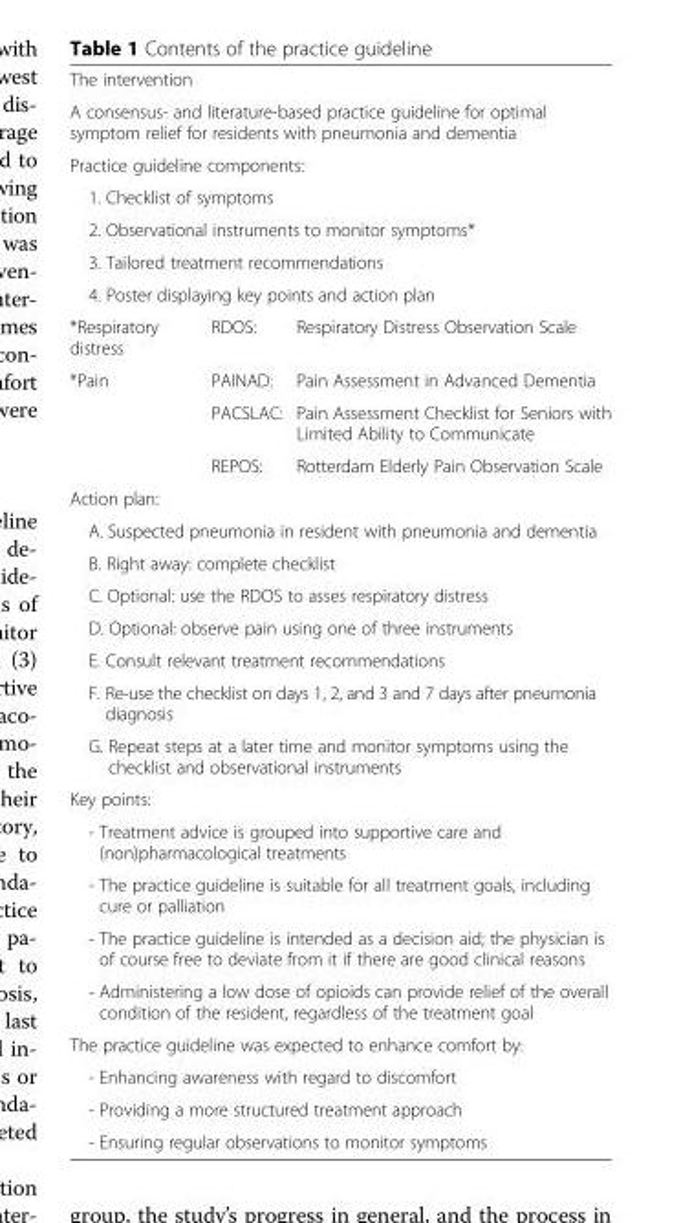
<table><tbody><tr><td colspan="3">The intervention</td></tr><tr><td colspan="3">A consensus- and literature-based practice guideline for optimal symptom relief for residents with pneumonia and dementia</td></tr><tr><td colspan="3">Practice guideline components:</td></tr><tr><td colspan="3">1. Checklist of symptoms</td></tr><tr><td colspan="3">2. Observational instruments to monitor symptoms*</td></tr><tr><td colspan="3">3. Tailored treatment recommendations</td></tr><tr><td colspan="3">4. Poster displaying key points and action plan</td></tr><tr><td>*Respiratory distress</td><td>RDOS:</td><td>Respiratory Distress Observation Scale</td></tr><tr><td rowspan="3">*Pain</td><td>PAINAD:</td><td>Pain Assessment in Advanced Dementia</td></tr><tr><td>PACSLAC:</td><td>Pain Assessment Checklist for Seniors with Limited Ability to Communicate</td></tr><tr><td>REPOS:</td><td>Rotterdam Elderly Pain Observation Scale</td></tr><tr><td colspan="3">Action plan:</td></tr><tr><td colspan="3">A. Suspected pneumonia in resident with pneumonia and dementia</td></tr><tr><td colspan="3">B. Right away: complete checklist</td></tr><tr><td colspan="3">C. Optional: use the RDOS to asses respiratory distress</td></tr><tr><td colspan="3">D. Optional: observe pain using one of three instruments</td></tr><tr><td colspan="3">E. Consult relevant treatment recommendations</td></tr><tr><td colspan="3">F. Re-use the checklist on days 1, 2, and 3 and 7 days after pneumonia diagnosis</td></tr><tr><td colspan="3">G. Repeat steps at a later time and monitor symptoms using the checklist and observational instruments</td></tr><tr><td colspan="3">Key points:</td></tr><tr><td colspan="3">- Treatment advice is grouped into supportive care and (non)pharmacological treatments</td></tr><tr><td colspan="3">- The practice guideline is suitable for all treatment goals, including cure or palliation</td></tr><tr><td colspan="3">- The practice guideline is intended as a decision aid; the physician is of course free to deviate from it if there are good clinical reasons</td></tr><tr><td colspan="3">- Administering a low dose of opioids can provide relief of the overall condition of the resident, regardless of the treatment goal</td></tr><tr><td colspan="3">The practice guideline was expected to enhance comfort by:</td></tr><tr><td colspan="3">- Enhancing awareness with regard to discomfort</td></tr><tr><td colspan="3">- Providing a more structured treatment approach</td></tr><tr><td colspan="3">- Ensuring regular observations to monitor symptoms</td></tr></tbody></table>